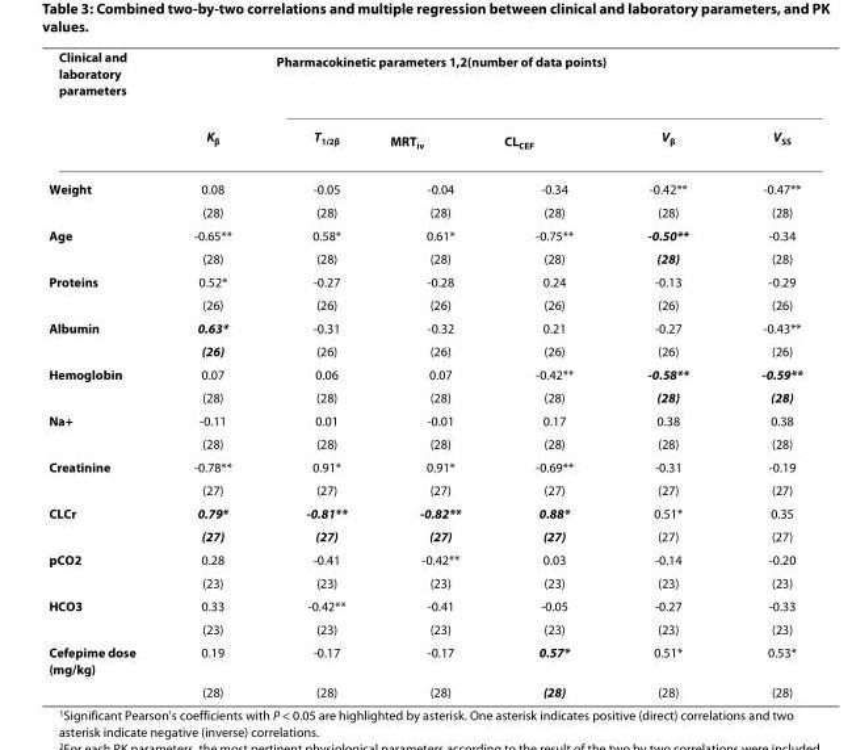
<table><thead><tr><td rowspan="2">Clinical and laboratory parameters</td><td rowspan="2">K<sub>β</sub></td><td colspan="5">Pharmacokinetic parameters <sup>1,2</sup>(number of data points)</td></tr><tr><td>T<sub>1/2β</sub></td><td>MRT<sub>iv</sub></td><td>CL<sub>CEF</sub></td><td>V<sub>β</sub></td><td>V<sub>SS</sub></td></tr></thead><tbody><tr><td rowspan="2">Weight</td><td>0.08</td><td>-0.05</td><td>-0.04</td><td>-0.34</td><td>-0.42**</td><td>-0.47**</td></tr><tr><td>(28)</td><td>(28)</td><td>(28)</td><td>(28)</td><td>(28)</td><td>(28)</td></tr><tr><td rowspan="2">Age</td><td>-0.65**</td><td>0.58*</td><td>0.61*</td><td>-0.75**</td><td>-0.50**</td><td>-0.34</td></tr><tr><td>(28)</td><td>(28)</td><td>(28)</td><td>(28)</td><td>(28)</td><td>(28)</td></tr><tr><td rowspan="2">Proteins</td><td>0.52*</td><td>-0.27</td><td>-0.28</td><td>0.24</td><td>-0.13</td><td>-0.29</td></tr><tr><td>(26)</td><td>(26)</td><td>(26)</td><td>(26)</td><td>(26)</td><td>(26)</td></tr><tr><td rowspan="2">Albumin</td><td>0.63*</td><td>-0.31</td><td>-0.32</td><td>0.21</td><td>-0.27</td><td>-0.43**</td></tr><tr><td>(26)</td><td>(26)</td><td>(26)</td><td>(26)</td><td>(26)</td><td>(26)</td></tr><tr><td rowspan="2">Hemoglobin</td><td>0.07</td><td>0.06</td><td>0.07</td><td>-0.42**</td><td>-0.58**</td><td>-0.59**</td></tr><tr><td>(28)</td><td>(28)</td><td>(28)</td><td>(28)</td><td>(28)</td><td>(28)</td></tr><tr><td rowspan="2">Na<sup>+</sup></td><td>-0.11</td><td>0.01</td><td>-0.01</td><td>0.17</td><td>0.38</td><td>0.38</td></tr><tr><td>(28)</td><td>(28)</td><td>(28)</td><td>(28)</td><td>(28)</td><td>(28)</td></tr><tr><td rowspan="2">Creatinine</td><td>-0.78**</td><td>0.91*</td><td>0.91*</td><td>-0.69**</td><td>-0.31</td><td>-0.19</td></tr><tr><td>(27)</td><td>(27)</td><td>(27)</td><td>(27)</td><td>(27)</td><td>(27)</td></tr><tr><td rowspan="2">CL<sub>Cr</sub></td><td>0.79*</td><td>-0.81**</td><td>-0.82**</td><td>0.88*</td><td>0.51*</td><td>0.35</td></tr><tr><td>(27)</td><td>(27)</td><td>(27)</td><td>(27)</td><td>(27)</td><td>(27)</td></tr><tr><td rowspan="2">pCO<sub>2</sub></td><td>0.28</td><td>-0.41</td><td>-0.42**</td><td>0.03</td><td>-0.14</td><td>-0.20</td></tr><tr><td>(23)</td><td>(23)</td><td>(23)</td><td>(23)</td><td>(23)</td><td>(23)</td></tr><tr><td rowspan="2">HCO<sub>3</sub></td><td>0.33</td><td>-0.42**</td><td>-0.41</td><td>-0.05</td><td>-0.27</td><td>-0.33</td></tr><tr><td>(23)</td><td>(23)</td><td>(23)</td><td>(23)</td><td>(23)</td><td>(23)</td></tr><tr><td rowspan="2">Cefepime dose (mg/kg)</td><td>0.19</td><td>-0.17</td><td>-0.17</td><td>0.57*</td><td>0.51*</td><td>0.53*</td></tr><tr><td>(28)</td><td>(28)</td><td>(28)</td><td>(28)</td><td>(28)</td><td>(28)</td></tr></tbody></table>